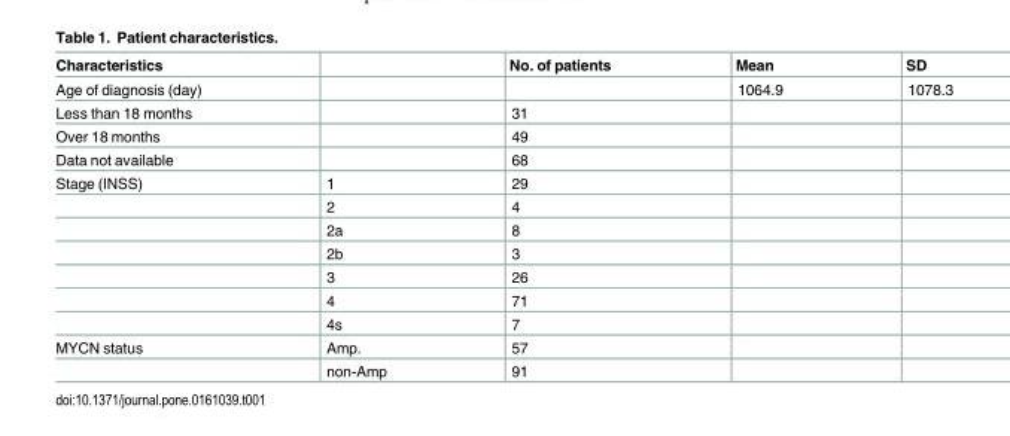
<table><thead><tr><td>Characteristics</td><td></td><td>No. of patients</td><td>Mean</td><td>SD</td></tr></thead><tbody><tr><td>Age of diagnosis (day)</td><td></td><td></td><td>1064.9</td><td>1078.3</td></tr><tr><td>Less than 18 months</td><td></td><td>31</td><td></td><td></td></tr><tr><td>Over 18 months</td><td></td><td>49</td><td></td><td></td></tr><tr><td>Data not available</td><td></td><td>68</td><td></td><td></td></tr><tr><td rowspan="7">Stage (INSS)</td><td>1</td><td>29</td><td></td><td></td></tr><tr><td>2</td><td>4</td><td></td><td></td></tr><tr><td>2a</td><td>8</td><td></td><td></td></tr><tr><td>2b</td><td>3</td><td></td><td></td></tr><tr><td>3</td><td>26</td><td></td><td></td></tr><tr><td>4</td><td>71</td><td></td><td></td></tr><tr><td>4s</td><td>7</td><td></td><td></td></tr><tr><td rowspan="2">MYCN status</td><td>Amp.</td><td>57</td><td></td><td></td></tr><tr><td>non-Amp</td><td>91</td><td></td><td></td></tr></tbody></table>